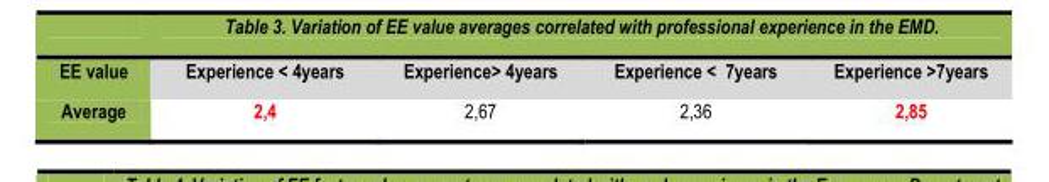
<table><tbody><tr><td>EE value</td><td>Experience &lt; 4years</td><td>Experience&gt; 4years</td><td>Experience &lt; 7years</td><td>Experience &gt;7years</td></tr><tr><td>Average</td><td>2,4</td><td>2,67</td><td>2,36</td><td>2,85</td></tr></tbody></table>